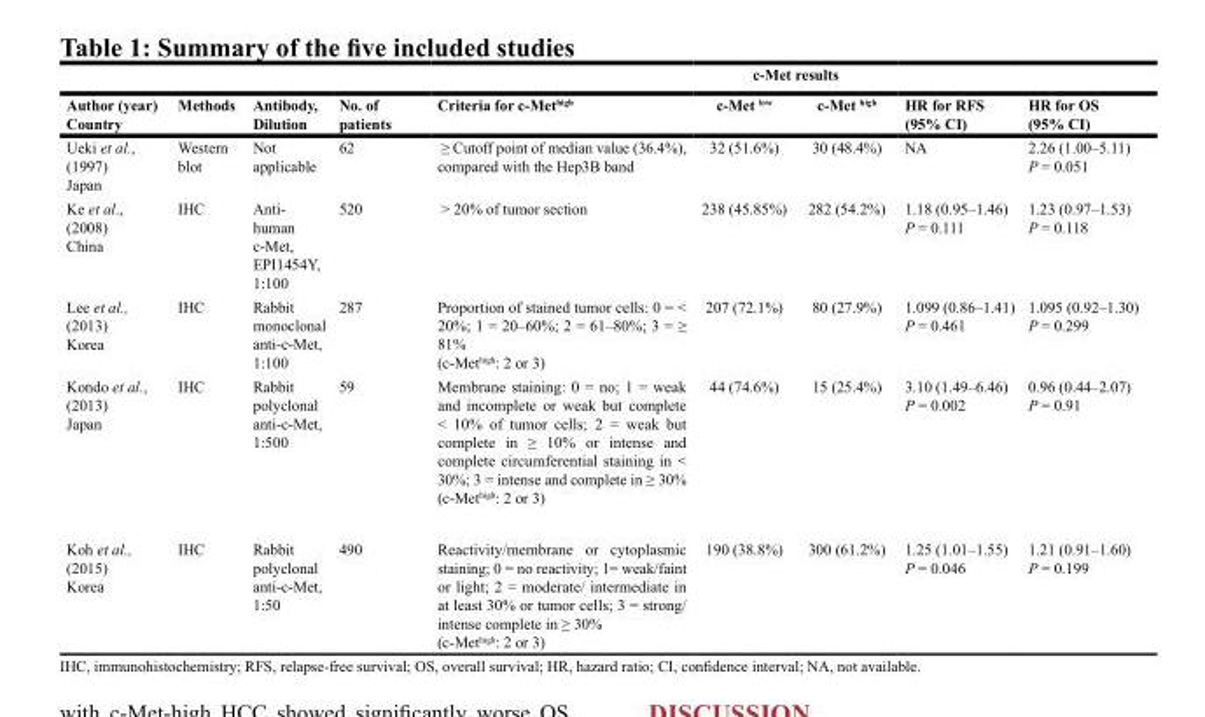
<table><thead><tr><td rowspan="2">Author (year) Country</td><td rowspan="2">Methods</td><td rowspan="2">Antibody, Dilution</td><td rowspan="2">No. of patients</td><td rowspan="2">Criteria for c-Met<sup>high</sup></td><td colspan="2">c-Met results</td><td rowspan="2">HR for RFS (95% CI)</td><td rowspan="2">HR for OS (95% CI)</td></tr><tr><td>c-Met <sup>low</sup></td><td>c-Met <sup>high</sup></td></tr></thead><tbody><tr><td>Ueki et al., (1997) Japan</td><td>Western blot</td><td>Not applicable</td><td>62</td><td>≥ Cutoff point of median value (36.4%), compared with the Hep3B band</td><td>32 (51.6%)</td><td>30 (48.4%)</td><td>NA</td><td>2.26 (1.00–5.11) P = 0.051</td></tr><tr><td>Ke et al., (2008) China</td><td>IHC</td><td>Anti- human c-Met, EPI1454Y, 1:100</td><td>520</td><td>&gt; 20% of tumor section</td><td>238 (45.85%)</td><td>282 (54.2%)</td><td>1.18 (0.95–1.46) P = 0.111</td><td>1.23 (0.97–1.53) P = 0.118</td></tr><tr><td>Lee et al., (2013) Korea</td><td>IHC</td><td>Rabbit monoclonal anti-c-Met, 1:100</td><td>287</td><td>Proportion of stained tumor cells: 0 = &lt; 20%; 1 = 20–60%; 2 = 61–80%; 3 = ≥ 81% (c-Met<sup>high</sup>: 2 or 3)</td><td>207 (72.1%)</td><td>80 (27.9%)</td><td>1.099 (0.86–1.41) P = 0.461</td><td>1.095 (0.92–1.30) P = 0.299</td></tr><tr><td>Kondo et al., (2013) Japan</td><td>IHC</td><td>Rabbit polyclonal anti-c-Met, 1:500</td><td>59</td><td>Membrane staining: 0 = no; 1 = weak and incomplete or weak but complete &lt; 10% of tumor cells; 2 = weak but complete in ≥ 10% or intense and complete circumferential staining in &lt; 30%; 3 = intense and complete in ≥ 30% (c-Met<sup>high</sup>: 2 or 3)</td><td>44 (74.6%)</td><td>15 (25.4%)</td><td>3.10 (1.49–6.46) P = 0.002</td><td>0.96 (0.44–2.07) P = 0.91</td></tr><tr><td>Koh et al., (2015) Korea</td><td>IHC</td><td>Rabbit polyclonal anti-c-Met, 1:50</td><td>490</td><td>Reactivity/membrane or cytoplasmic staining; 0 = no reactivity; 1= weak/faint or light; 2 = moderate/ intermediate in at least 30% or tumor cells; 3 = strong/ intense complete in ≥ 30% (c-Met<sup>high</sup>: 2 or 3)</td><td>190 (38.8%)</td><td>300 (61.2%)</td><td>1.25 (1.01–1.55) P = 0.046</td><td>1.21 (0.91–1.60) P = 0.199</td></tr></tbody></table>